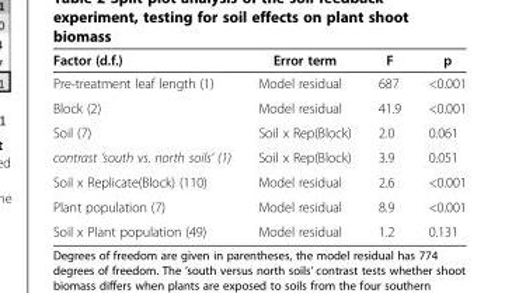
<table><thead><tr><td>Factor (d.f.)</td><td>Error term</td><td>F</td><td>p</td></tr></thead><tbody><tr><td>Pre-treatment leaf length (1)</td><td>Model residual</td><td>687</td><td>&lt;0.001</td></tr><tr><td>Block (2)</td><td>Model residual</td><td>41.9</td><td>&lt;0.001</td></tr><tr><td>Soil (7)</td><td>Soil x Rep(Block)</td><td>2.0</td><td>0.061</td></tr><tr><td>contrast ‘south vs. north soils’ (1)</td><td>Soil x Rep(Block)</td><td>3.9</td><td>0.051</td></tr><tr><td>Soil x Replicate(Block) (110)</td><td>Model residual</td><td>2.6</td><td>&lt;0.001</td></tr><tr><td>Plant population (7)</td><td>Model residual</td><td>8.9</td><td>&lt;0.001</td></tr><tr><td>Soil x Plant population (49)</td><td>Model residual</td><td>1.2</td><td>0.131</td></tr></tbody></table>